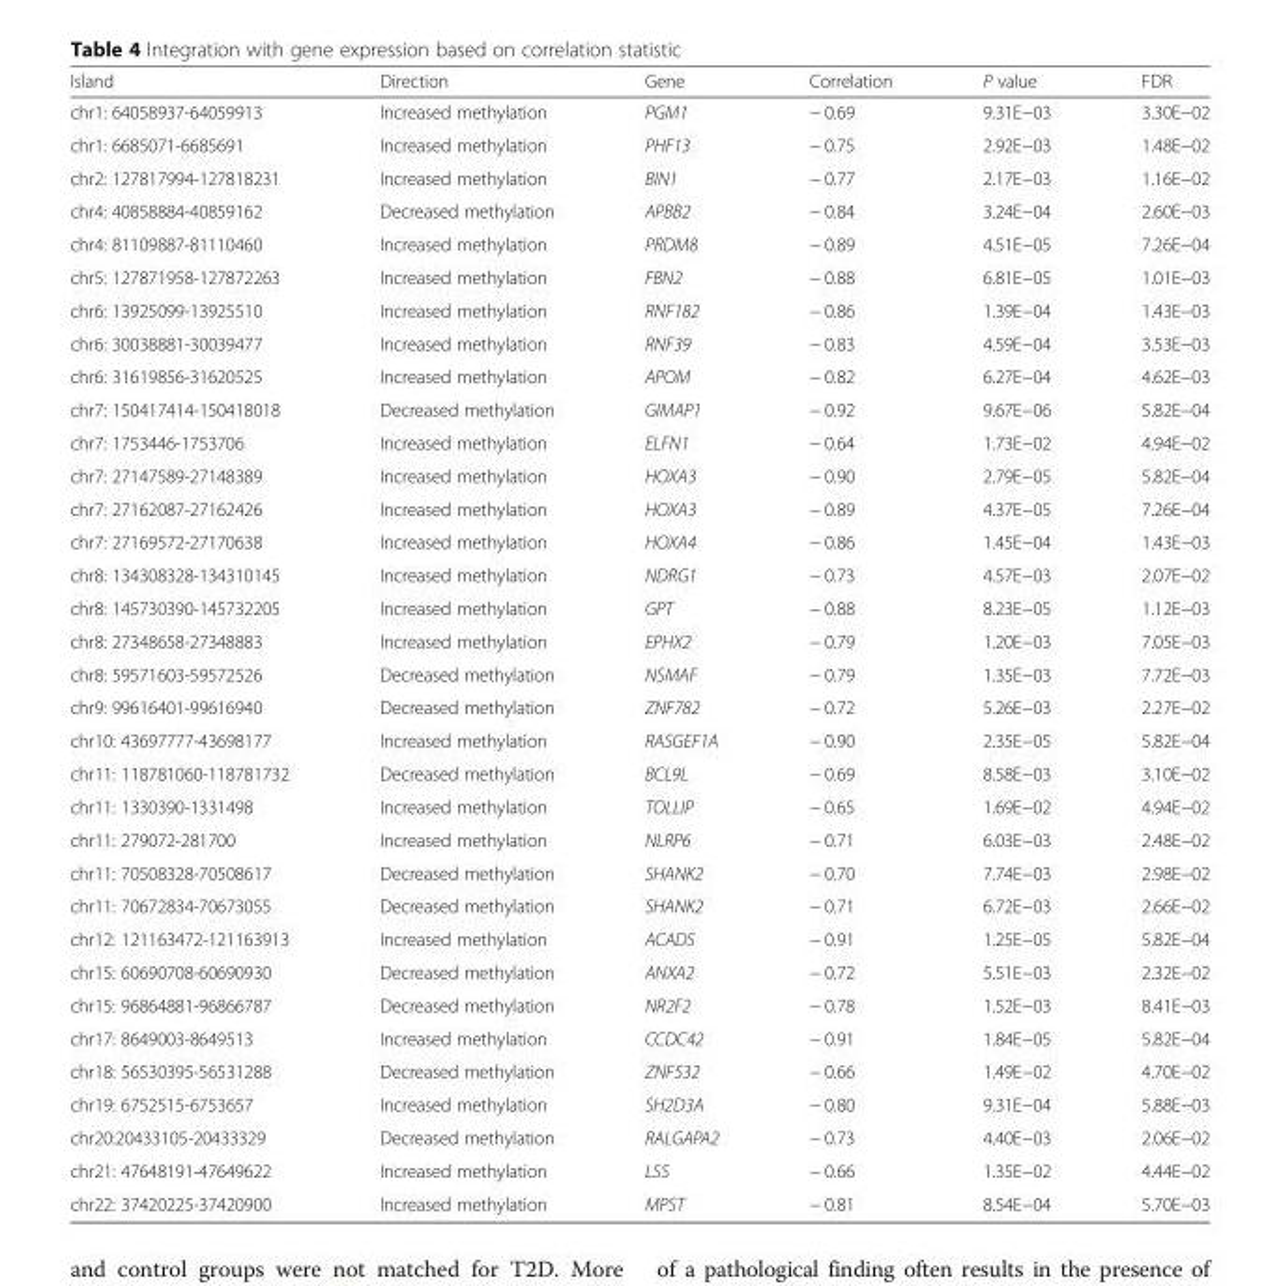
<table><thead><tr><td>Island</td><td>Direction</td><td>Gene</td><td>Correlation</td><td>P value</td><td>FDR</td></tr></thead><tbody><tr><td>chr1: 64058937-64059913</td><td>Increased methylation</td><td>PGM1</td><td>− 0.69</td><td>9.31E−03</td><td>3.30E−02</td></tr><tr><td>chr1: 6685071-6685691</td><td>Increased methylation</td><td>PHF13</td><td>− 0.75</td><td>2.92E−03</td><td>1.48E−02</td></tr><tr><td>chr2: 127817994-127818231</td><td>Increased methylation</td><td>BIN1</td><td>− 0.77</td><td>2.17E−03</td><td>1.16E−02</td></tr><tr><td>chr4: 40858884-40859162</td><td>Decreased methylation</td><td>APBB2</td><td>− 0.84</td><td>3.24E−04</td><td>2.60E−03</td></tr><tr><td>chr4: 81109887-81110460</td><td>Increased methylation</td><td>PRDM8</td><td>− 0.89</td><td>4.51E−05</td><td>7.26E−04</td></tr><tr><td>chr5: 127871958-127872263</td><td>Increased methylation</td><td>FBN2</td><td>− 0.88</td><td>6.81E−05</td><td>1.01E−03</td></tr><tr><td>chr6: 13925099-13925510</td><td>Increased methylation</td><td>RNF182</td><td>− 0.86</td><td>1.39E−04</td><td>1.43E−03</td></tr><tr><td>chr6: 30038881-30039477</td><td>Increased methylation</td><td>RNF39</td><td>− 0.83</td><td>4.59E−04</td><td>3.53E−03</td></tr><tr><td>chr6: 31619856-31620525</td><td>Increased methylation</td><td>APOM</td><td>− 0.82</td><td>6.27E−04</td><td>4.62E−03</td></tr><tr><td>chr7: 150417414-150418018</td><td>Decreased methylation</td><td>GIMAP1</td><td>− 0.92</td><td>9.67E−06</td><td>5.82E−04</td></tr><tr><td>chr7: 1753446-1753706</td><td>Increased methylation</td><td>ELFN1</td><td>− 0.64</td><td>1.73E−02</td><td>4.94E−02</td></tr><tr><td>chr7: 27147589-27148389</td><td>Increased methylation</td><td>HOXA3</td><td>− 0.90</td><td>2.79E−05</td><td>5.82E−04</td></tr><tr><td>chr7: 27162087-27162426</td><td>Increased methylation</td><td>HOXA3</td><td>− 0.89</td><td>4.37E−05</td><td>7.26E−04</td></tr><tr><td>chr7: 27169572-27170638</td><td>Increased methylation</td><td>HOXA4</td><td>− 0.86</td><td>1.45E−04</td><td>1.43E−03</td></tr><tr><td>chr8: 134308328-134310145</td><td>Increased methylation</td><td>NDRG1</td><td>− 0.73</td><td>4.57E−03</td><td>2.07E−02</td></tr><tr><td>chr8: 145730390-145732205</td><td>Increased methylation</td><td>GPT</td><td>− 0.88</td><td>8.23E−05</td><td>1.12E−03</td></tr><tr><td>chr8: 27348658-27348883</td><td>Increased methylation</td><td>EPHX2</td><td>− 0.79</td><td>1.20E−03</td><td>7.05E−03</td></tr><tr><td>chr8: 59571603-59572526</td><td>Decreased methylation</td><td>NSMAF</td><td>− 0.79</td><td>1.35E−03</td><td>7.72E−03</td></tr><tr><td>chr9: 99616401-99616940</td><td>Decreased methylation</td><td>ZNF782</td><td>− 0.72</td><td>5.26E−03</td><td>2.27E−02</td></tr><tr><td>chr10: 43697777-43698177</td><td>Increased methylation</td><td>RASGEF1A</td><td>− 0.90</td><td>2.35E−05</td><td>5.82E−04</td></tr><tr><td>chr11: 118781060-118781732</td><td>Decreased methylation</td><td>BCL9L</td><td>− 0.69</td><td>8.58E−03</td><td>3.10E−02</td></tr><tr><td>chr11: 1330390-1331498</td><td>Increased methylation</td><td>TOLLIP</td><td>− 0.65</td><td>1.69E−02</td><td>4.94E−02</td></tr><tr><td>chr11: 279072-281700</td><td>Increased methylation</td><td>NLRP6</td><td>− 0.71</td><td>6.03E−03</td><td>2.48E−02</td></tr><tr><td>chr11: 70508328-70508617</td><td>Decreased methylation</td><td>SHANK2</td><td>− 0.70</td><td>7.74E−03</td><td>2.98E−02</td></tr><tr><td>chr11: 70672834-70673055</td><td>Decreased methylation</td><td>SHANK2</td><td>− 0.71</td><td>6.72E−03</td><td>2.66E−02</td></tr><tr><td>chr12: 121163472-121163913</td><td>Increased methylation</td><td>ACADS</td><td>− 0.91</td><td>1.25E−05</td><td>5.82E−04</td></tr><tr><td>chr15: 60690708-60690930</td><td>Decreased methylation</td><td>ANXA2</td><td>− 0.72</td><td>5.51E−03</td><td>2.32E−02</td></tr><tr><td>chr15: 96864881-96866787</td><td>Decreased methylation</td><td>NR2F2</td><td>− 0.78</td><td>1.52E−03</td><td>8.41E−03</td></tr><tr><td>chr17: 8649003-8649513</td><td>Increased methylation</td><td>CCDC42</td><td>− 0.91</td><td>1.84E−05</td><td>5.82E−04</td></tr><tr><td>chr18: 56530395-56531288</td><td>Decreased methylation</td><td>ZNF532</td><td>− 0.66</td><td>1.49E−02</td><td>4.70E−02</td></tr><tr><td>chr19: 6752515-6753657</td><td>Increased methylation</td><td>SH2D3A</td><td>− 0.80</td><td>9.31E−04</td><td>5.88E−03</td></tr><tr><td>chr20:20433105-20433329</td><td>Decreased methylation</td><td>RALGAPA2</td><td>− 0.73</td><td>4.40E−03</td><td>2.06E−02</td></tr><tr><td>chr21: 47648191-47649622</td><td>Increased methylation</td><td>LSS</td><td>− 0.66</td><td>1.35E−02</td><td>4.44E−02</td></tr><tr><td>chr22: 37420225-37420900</td><td>Increased methylation</td><td>MPST</td><td>− 0.81</td><td>8.54E−04</td><td>5.70E−03</td></tr></tbody></table>